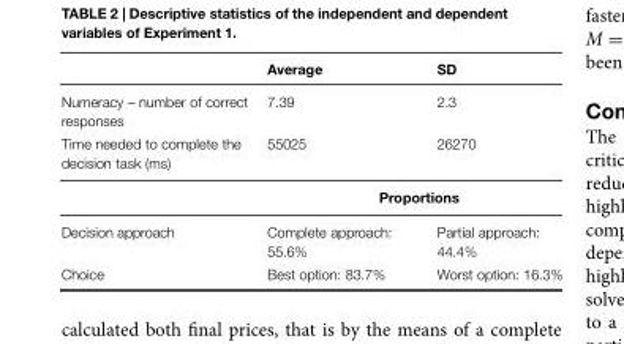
<table><thead><tr><td></td><td>Average</td><td>SD</td></tr></thead><tbody><tr><td>Numeracy – number of correct responses</td><td>7.39</td><td>2.3</td></tr><tr><td rowspan="2">Time needed to complete the decision task (ms)</td><td>55025</td><td>26270</td></tr><tr><td colspan="2">Proportions</td></tr><tr><td>Decision approach</td><td>Complete approach: 55.6%</td><td>Partial approach: 44.4%</td></tr><tr><td>Choice</td><td>Best option: 83.7%</td><td>Worst option: 16.3%</td></tr></tbody></table>